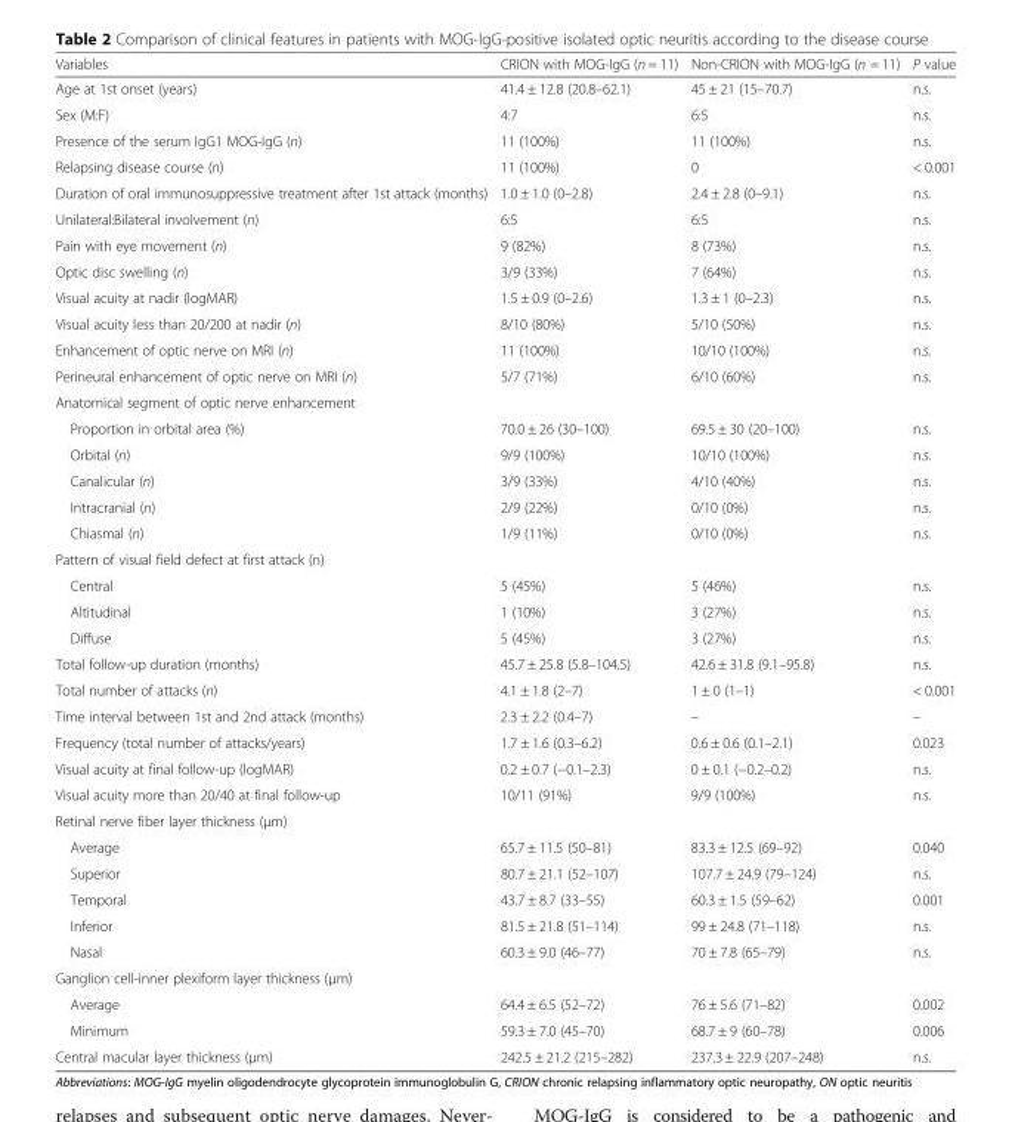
<table><thead><tr><td>Variables</td><td>CRION with MOG-IgG (n = 11)</td><td>Non-CRION with MOG-IgG (n = 11)</td><td>P value</td></tr></thead><tbody><tr><td>Age at 1st onset (years)</td><td>41.4 ± 12.8 (20.8–62.1)</td><td>45 ± 21 (15–70.7)</td><td>n.s.</td></tr><tr><td>Sex (M:F)</td><td>4:7</td><td>6:5</td><td>n.s.</td></tr><tr><td>Presence of the serum IgG1 MOG-IgG (n)</td><td>11 (100%)</td><td>11 (100%)</td><td>n.s.</td></tr><tr><td>Relapsing disease course (n)</td><td>11 (100%)</td><td>0</td><td>&lt; 0.001</td></tr><tr><td>Duration of oral immunosuppressive treatment after 1st attack (months)</td><td>1.0 ± 1.0 (0–2.8)</td><td>2.4 ± 2.8 (0–9.1)</td><td>n.s.</td></tr><tr><td>Unilateral:Bilateral involvement (n)</td><td>6:5</td><td>6:5</td><td>n.s.</td></tr><tr><td>Pain with eye movement (n)</td><td>9 (82%)</td><td>8 (73%)</td><td>n.s.</td></tr><tr><td>Optic disc swelling (n)</td><td>3/9 (33%)</td><td>7 (64%)</td><td>n.s.</td></tr><tr><td>Visual acuity at nadir (logMAR)</td><td>1.5 ± 0.9 (0–2.6)</td><td>1.3 ± 1 (0–2.3)</td><td>n.s.</td></tr><tr><td>Visual acuity less than 20/200 at nadir (n)</td><td>8/10 (80%)</td><td>5/10 (50%)</td><td>n.s.</td></tr><tr><td>Enhancement of optic nerve on MRI (n)</td><td>11 (100%)</td><td>10/10 (100%)</td><td>n.s.</td></tr><tr><td>Perineural enhancement of optic nerve on MRI (n)</td><td>5/7 (71%)</td><td>6/10 (60%)</td><td>n.s.</td></tr><tr><td colspan="4">Anatomical segment of optic nerve enhancement</td></tr><tr><td>Proportion in orbital area (%)</td><td>70.0 ± 26 (30–100)</td><td>69.5 ± 30 (20–100)</td><td>n.s.</td></tr><tr><td>Orbital (n)</td><td>9/9 (100%)</td><td>10/10 (100%)</td><td>n.s.</td></tr><tr><td>Canalicular (n)</td><td>3/9 (33%)</td><td>4/10 (40%)</td><td>n.s.</td></tr><tr><td>Intracranial (n)</td><td>2/9 (22%)</td><td>0/10 (0%)</td><td>n.s.</td></tr><tr><td>Chiasmal (n)</td><td>1/9 (11%)</td><td>0/10 (0%)</td><td>n.s.</td></tr><tr><td colspan="4">Pattern of visual field defect at first attack (n)</td></tr><tr><td>Central</td><td>5 (45%)</td><td>5 (46%)</td><td>n.s.</td></tr><tr><td>Altitudinal</td><td>1 (10%)</td><td>3 (27%)</td><td>n.s.</td></tr><tr><td>Diffuse</td><td>5 (45%)</td><td>3 (27%)</td><td>n.s.</td></tr><tr><td>Total follow-up duration (months)</td><td>45.7 ± 25.8 (5.8–104.5)</td><td>42.6 ± 31.8 (9.1–95.8)</td><td>n.s.</td></tr><tr><td>Total number of attacks (n)</td><td>4.1 ± 1.8 (2–7)</td><td>1 ± 0 (1–1)</td><td>&lt; 0.001</td></tr><tr><td>Time interval between 1st and 2nd attack (months)</td><td>2.3 ± 2.2 (0.4–7)</td><td>–</td><td>–</td></tr><tr><td>Frequency (total number of attacks/years)</td><td>1.7 ± 1.6 (0.3–6.2)</td><td>0.6 ± 0.6 (0.1–2.1)</td><td>0.023</td></tr><tr><td>Visual acuity at final follow-up (logMAR)</td><td>0.2 ± 0.7 (−0.1–2.3)</td><td>0 ± 0.1 (−0.2–0.2)</td><td>n.s.</td></tr><tr><td>Visual acuity more than 20/40 at final follow-up</td><td>10/11 (91%)</td><td>9/9 (100%)</td><td>n.s.</td></tr><tr><td colspan="4">Retinal nerve fiber layer thickness (μm)</td></tr><tr><td>Average</td><td>65.7 ± 11.5 (50–81)</td><td>83.3 ± 12.5 (69–92)</td><td>0.040</td></tr><tr><td>Superior</td><td>80.7 ± 21.1 (52–107)</td><td>107.7 ± 24.9 (79–124)</td><td>n.s.</td></tr><tr><td>Temporal</td><td>43.7 ± 8.7 (33–55)</td><td>60.3 ± 1.5 (59–62)</td><td>0.001</td></tr><tr><td>Inferior</td><td>81.5 ± 21.8 (51–114)</td><td>99 ± 24.8 (71–118)</td><td>n.s.</td></tr><tr><td>Nasal</td><td>60.3 ± 9.0 (46–77)</td><td>70 ± 7.8 (65–79)</td><td>n.s.</td></tr><tr><td colspan="4">Ganglion cell-inner plexiform layer thickness (μm)</td></tr><tr><td>Average</td><td>64.4 ± 6.5 (52–72)</td><td>76 ± 5.6 (71–82)</td><td>0.002</td></tr><tr><td>Minimum</td><td>59.3 ± 7.0 (45–70)</td><td>68.7 ± 9 (60–78)</td><td>0.006</td></tr><tr><td>Central macular layer thickness (μm)</td><td>242.5 ± 21.2 (215–282)</td><td>237.3 ± 22.9 (207–248)</td><td>n.s.</td></tr></tbody></table>